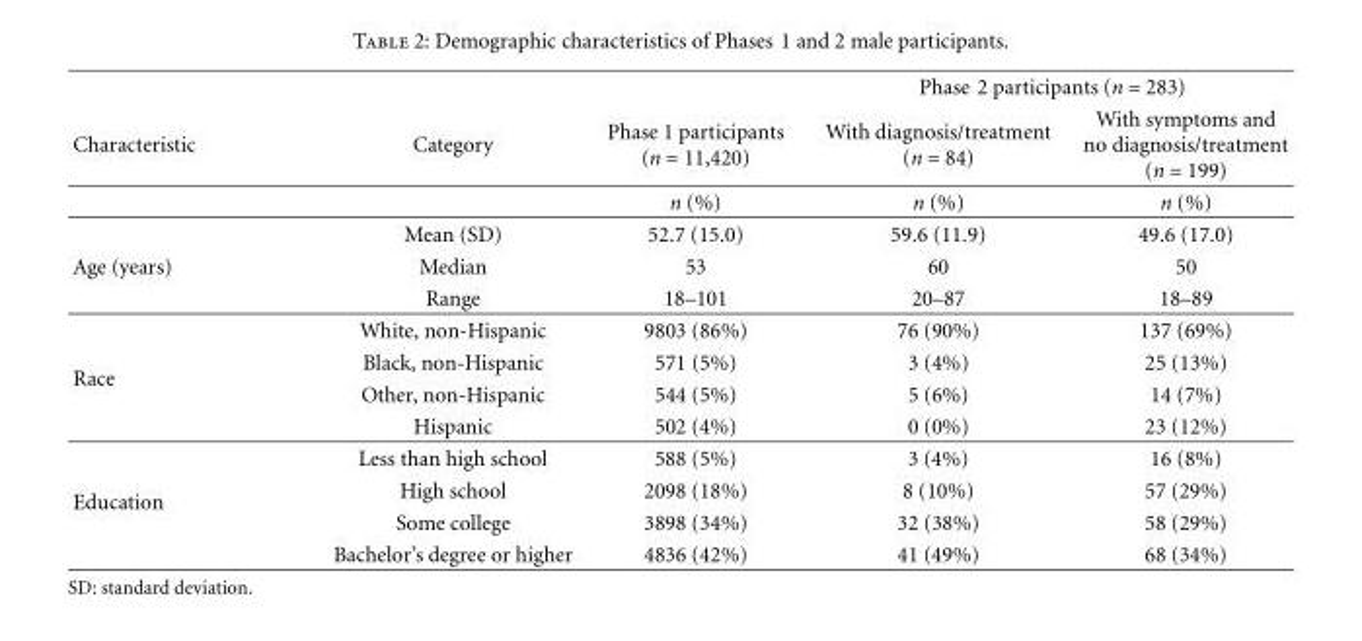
<table><thead><tr><td rowspan="2">Characteristic</td><td rowspan="2">Category</td><td rowspan="2">Phase 1 participants (n = 11,420)</td><td colspan="2">Phase 2 participants (n = 283)</td></tr><tr><td>With diagnosis/treatment (n = 84)</td><td>With symptoms and no diagnosis/treatment (n = 199)</td></tr></thead><tbody><tr><td></td><td></td><td>n (%)</td><td>n (%)</td><td>n (%)</td></tr><tr><td rowspan="3">Age (years)</td><td>Mean (SD)</td><td>52.7 (15.0)</td><td>59.6 (11.9)</td><td>49.6 (17.0)</td></tr><tr><td>Median</td><td>53</td><td>60</td><td>50</td></tr><tr><td>Range</td><td>18–101</td><td>20–87</td><td>18–89</td></tr><tr><td rowspan="4">Race</td><td>White, non-Hispanic</td><td>9803 (86%)</td><td>76 (90%)</td><td>137 (69%)</td></tr><tr><td>Black, non-Hispanic</td><td>571 (5%)</td><td>3 (4%)</td><td>25 (13%)</td></tr><tr><td>Other, non-Hispanic</td><td>544 (5%)</td><td>5 (6%)</td><td>14 (7%)</td></tr><tr><td>Hispanic</td><td>502 (4%)</td><td>0 (0%)</td><td>23 (12%)</td></tr><tr><td rowspan="4">Education</td><td>Less than high school</td><td>588 (5%)</td><td>3 (4%)</td><td>16 (8%)</td></tr><tr><td>High school</td><td>2098 (18%)</td><td>8 (10%)</td><td>57 (29%)</td></tr><tr><td>Some college</td><td>3898 (34%)</td><td>32 (38%)</td><td>58 (29%)</td></tr><tr><td>Bachelor’s degree or higher</td><td>4836 (42%)</td><td>41 (49%)</td><td>68 (34%)</td></tr></tbody></table>